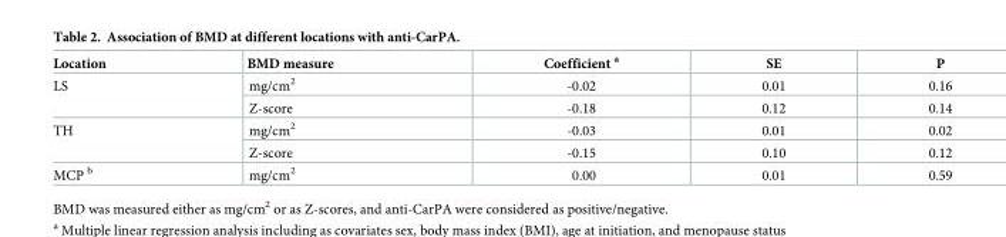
<table><thead><tr><td>Location</td><td>BMD measure</td><td>Coefficient <sup>a</sup></td><td>SE</td><td>P</td></tr></thead><tbody><tr><td rowspan="2">LS</td><td>mg/cm<sup>2</sup></td><td>-0.02</td><td>0.01</td><td>0.16</td></tr><tr><td>Z-score</td><td>-0.18</td><td>0.12</td><td>0.14</td></tr><tr><td rowspan="2">TH</td><td>mg/cm<sup>2</sup></td><td>-0.03</td><td>0.01</td><td>0.02</td></tr><tr><td>Z-score</td><td>-0.15</td><td>0.10</td><td>0.12</td></tr><tr><td>MCP <sup>b</sup></td><td>mg/cm<sup>2</sup></td><td>0.00</td><td>0.01</td><td>0.59</td></tr></tbody></table>